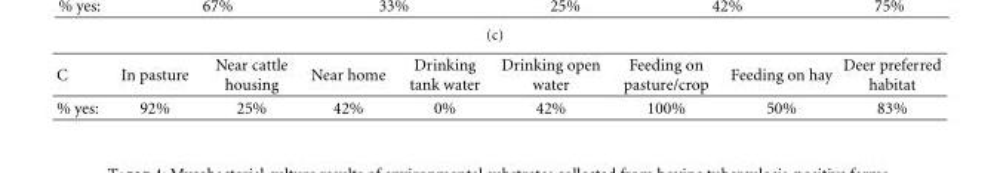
<table><thead><tr><td>C</td><td>In pasture</td><td>Near cattle housing</td><td>Near home</td><td>Drinking tank water</td><td>Drinking open water</td><td>Feeding on pasture/crop</td><td>Feeding on hay</td><td>Deer preferred habitat</td></tr></thead><tbody><tr><td>% yes:</td><td>92%</td><td>25%</td><td>42%</td><td>0%</td><td>42%</td><td>100%</td><td>50%</td><td>83%</td></tr></tbody></table>